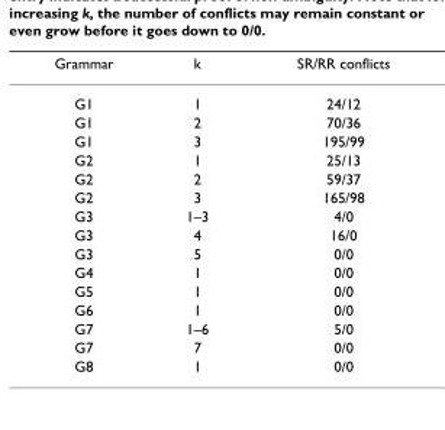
<table><thead><tr><td>Grammar</td><td>k</td><td>SR/RR conflicts</td></tr></thead><tbody><tr><td>G1</td><td>1</td><td>24/12</td></tr><tr><td>G1</td><td>2</td><td>70/36</td></tr><tr><td>G1</td><td>3</td><td>195/99</td></tr><tr><td>G2</td><td>1</td><td>25/13</td></tr><tr><td>G2</td><td>2</td><td>59/37</td></tr><tr><td>G2</td><td>3</td><td>165/98</td></tr><tr><td>G3</td><td>1–3</td><td>4/0</td></tr><tr><td>G3</td><td>4</td><td>16/0</td></tr><tr><td>G3</td><td>5</td><td>0/0</td></tr><tr><td>G4</td><td>1</td><td>0/0</td></tr><tr><td>G5</td><td>1</td><td>0/0</td></tr><tr><td>G6</td><td>1</td><td>0/0</td></tr><tr><td>G7</td><td>1–6</td><td>5/0</td></tr><tr><td>G7</td><td>7</td><td>0/0</td></tr><tr><td>G8</td><td>1</td><td>0/0</td></tr></tbody></table>